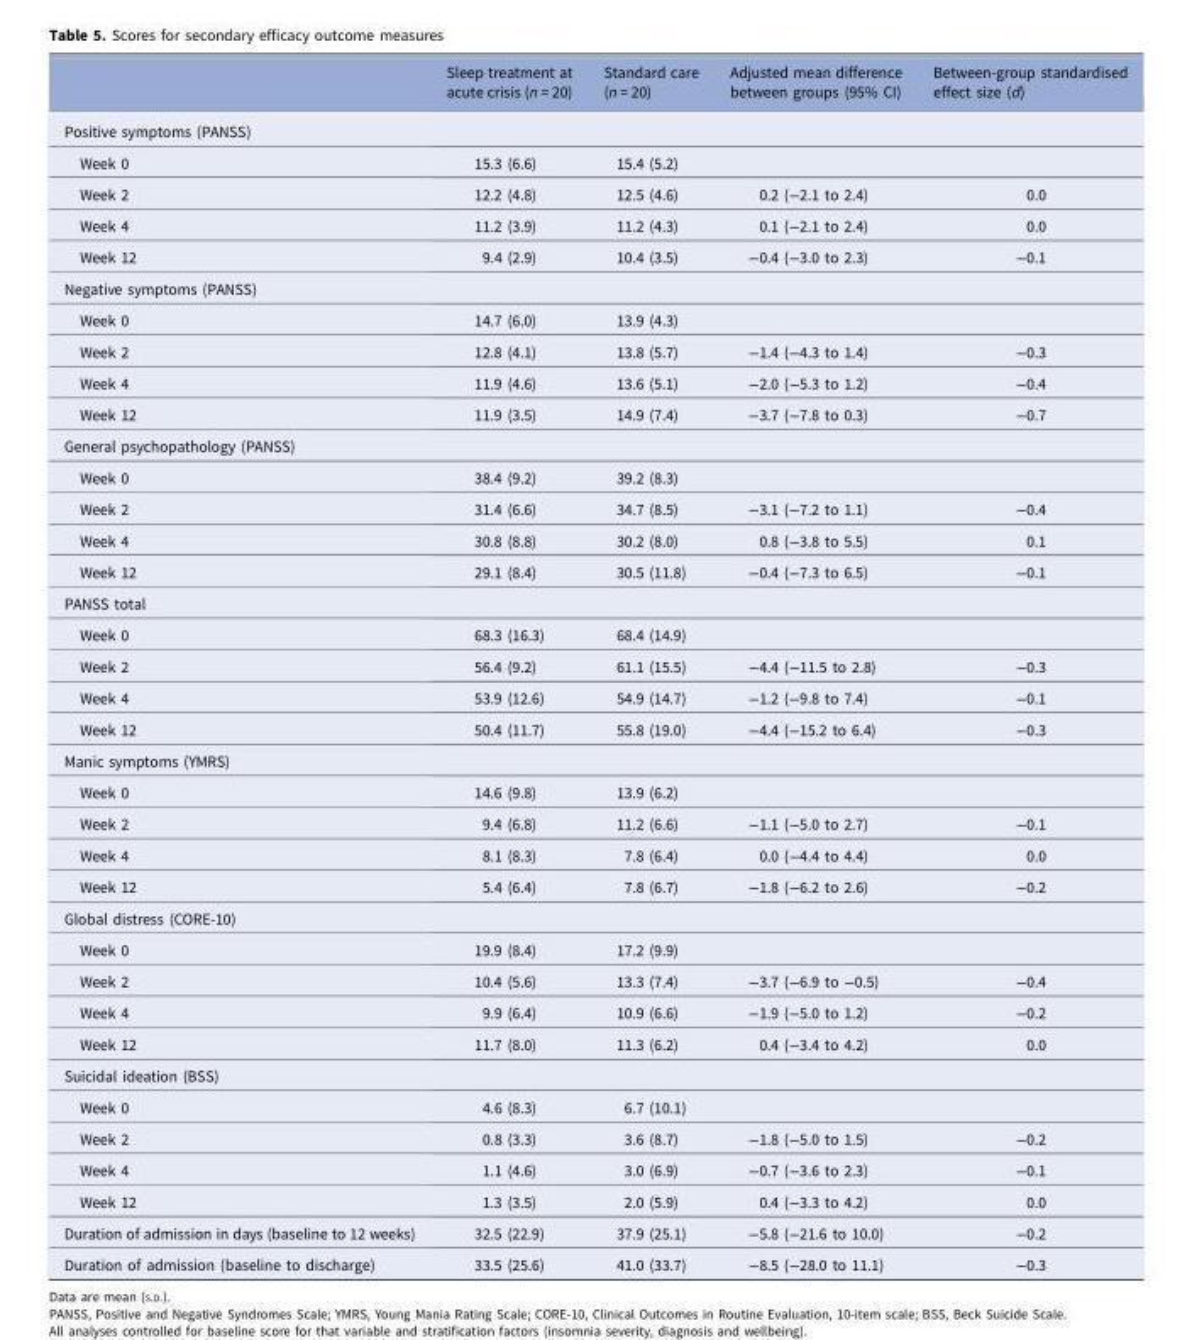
<table><thead><tr><td></td><td>Sleep treatment at acute crisis (n = 20)</td><td>Standard care (n = 20)</td><td>Adjusted mean difference between groups (95% CI)</td><td>Between-group standardised effect size (d)</td></tr></thead><tbody><tr><td colspan="5">Positive symptoms (PANSS)</td></tr><tr><td>Week 0</td><td>15.3 (6.6)</td><td>15.4 (5.2)</td><td></td><td></td></tr><tr><td>Week 2</td><td>12.2 (4.8)</td><td>12.5 (4.6)</td><td>0.2 (−2.1 to 2.4)</td><td>0.0</td></tr><tr><td>Week 4</td><td>11.2 (3.9)</td><td>11.2 (4.3)</td><td>0.1 (−2.1 to 2.4)</td><td>0.0</td></tr><tr><td>Week 12</td><td>9.4 (2.9)</td><td>10.4 (3.5)</td><td>−0.4 (−3.0 to 2.3)</td><td>−0.1</td></tr><tr><td colspan="5">Negative symptoms (PANSS)</td></tr><tr><td>Week 0</td><td>14.7 (6.0)</td><td>13.9 (4.3)</td><td></td><td></td></tr><tr><td>Week 2</td><td>12.8 (4.1)</td><td>13.8 (5.7)</td><td>−1.4 (−4.3 to 1.4)</td><td>−0.3</td></tr><tr><td>Week 4</td><td>11.9 (4.6)</td><td>13.6 (5.1)</td><td>−2.0 (−5.3 to 1.2)</td><td>−0.4</td></tr><tr><td>Week 12</td><td>11.9 (3.5)</td><td>14.9 (7.4)</td><td>−3.7 (−7.8 to 0.3)</td><td>−0.7</td></tr><tr><td colspan="5">General psychopathology (PANSS)</td></tr><tr><td>Week 0</td><td>38.4 (9.2)</td><td>39.2 (8.3)</td><td></td><td></td></tr><tr><td>Week 2</td><td>31.4 (6.6)</td><td>34.7 (8.5)</td><td>−3.1 (−7.2 to 1.1)</td><td>−0.4</td></tr><tr><td>Week 4</td><td>30.8 (8.8)</td><td>30.2 (8.0)</td><td>0.8 (−3.8 to 5.5)</td><td>0.1</td></tr><tr><td>Week 12</td><td>29.1 (8.4)</td><td>30.5 (11.8)</td><td>−0.4 (−7.3 to 6.5)</td><td>−0.1</td></tr><tr><td colspan="5">PANSS total</td></tr><tr><td>Week 0</td><td>68.3 (16.3)</td><td>68.4 (14.9)</td><td></td><td></td></tr><tr><td>Week 2</td><td>56.4 (9.2)</td><td>61.1 (15.5)</td><td>−4.4 (−11.5 to 2.8)</td><td>−0.3</td></tr><tr><td>Week 4</td><td>53.9 (12.6)</td><td>54.9 (14.7)</td><td>−1.2 (−9.8 to 7.4)</td><td>−0.1</td></tr><tr><td>Week 12</td><td>50.4 (11.7)</td><td>55.8 (19.0)</td><td>−4.4 (−15.2 to 6.4)</td><td>−0.3</td></tr><tr><td colspan="5">Manic symptoms (YMRS)</td></tr><tr><td>Week 0</td><td>14.6 (9.8)</td><td>13.9 (6.2)</td><td></td><td></td></tr><tr><td>Week 2</td><td>9.4 (6.8)</td><td>11.2 (6.6)</td><td>−1.1 (−5.0 to 2.7)</td><td>−0.1</td></tr><tr><td>Week 4</td><td>8.1 (8.3)</td><td>7.8 (6.4)</td><td>0.0 (−4.4 to 4.4)</td><td>0.0</td></tr><tr><td>Week 12</td><td>5.4 (6.4)</td><td>7.8 (6.7)</td><td>−1.8 (−6.2 to 2.6)</td><td>−0.2</td></tr><tr><td colspan="5">Global distress (CORE-10)</td></tr><tr><td>Week 0</td><td>19.9 (8.4)</td><td>17.2 (9.9)</td><td></td><td></td></tr><tr><td>Week 2</td><td>10.4 (5.6)</td><td>13.3 (7.4)</td><td>−3.7 (−6.9 to −0.5)</td><td>−0.4</td></tr><tr><td>Week 4</td><td>9.9 (6.4)</td><td>10.9 (6.6)</td><td>−1.9 (−5.0 to 1.2)</td><td>−0.2</td></tr><tr><td>Week 12</td><td>11.7 (8.0)</td><td>11.3 (6.2)</td><td>0.4 (−3.4 to 4.2)</td><td>0.0</td></tr><tr><td colspan="5">Suicidal ideation (BSS)</td></tr><tr><td>Week 0</td><td>4.6 (8.3)</td><td>6.7 (10.1)</td><td></td><td></td></tr><tr><td>Week 2</td><td>0.8 (3.3)</td><td>3.6 (8.7)</td><td>−1.8 (−5.0 to 1.5)</td><td>−0.2</td></tr><tr><td>Week 4</td><td>1.1 (4.6)</td><td>3.0 (6.9)</td><td>−0.7 (−3.6 to 2.3)</td><td>−0.1</td></tr><tr><td>Week 12</td><td>1.3 (3.5)</td><td>2.0 (5.9)</td><td>0.4 (−3.3 to 4.2)</td><td>0.0</td></tr><tr><td>Duration of admission in days (baseline to 12 weeks)</td><td>32.5 (22.9)</td><td>37.9 (25.1)</td><td>−5.8 (−21.6 to 10.0)</td><td>−0.2</td></tr><tr><td>Duration of admission (baseline to discharge)</td><td>33.5 (25.6)</td><td>41.0 (33.7)</td><td>−8.5 (−28.0 to 11.1)</td><td>−0.3</td></tr></tbody></table>